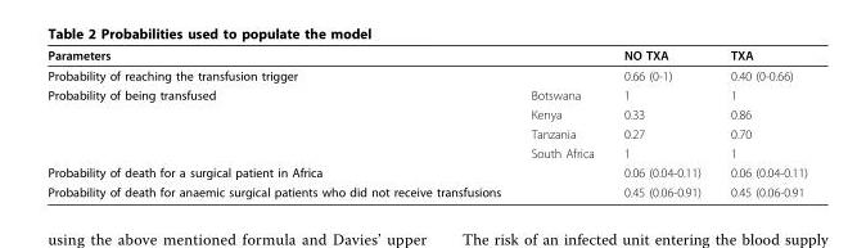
<table><thead><tr><td>Parameters</td><td></td><td>NO TXA</td><td>TXA</td></tr></thead><tbody><tr><td>Probability of reaching the transfusion trigger</td><td></td><td>0.66 (0-1)</td><td>0.40 (0-0.66)</td></tr><tr><td rowspan="4">Probability of being transfused</td><td>Botswana</td><td>1</td><td>1</td></tr><tr><td>Kenya</td><td>0.33</td><td>0.86</td></tr><tr><td>Tanzania</td><td>0.27</td><td>0.70</td></tr><tr><td>South Africa</td><td>1</td><td>1</td></tr><tr><td>Probability of death for a surgical patient in Africa</td><td></td><td>0.06 (0.04-0.11)</td><td>0.06 (0.04-0.11)</td></tr><tr><td>Probability of death for anaemic surgical patients who did not receive transfusions</td><td></td><td>0.45 (0.06-0.91)</td><td>0.45 (0.06-0.91</td></tr></tbody></table>